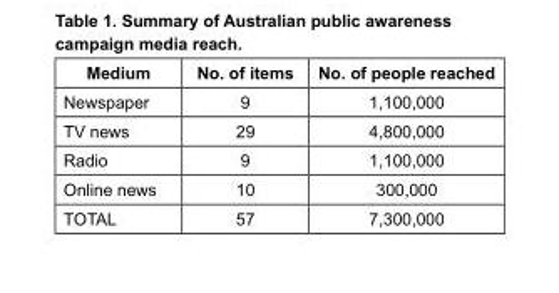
<table><thead><tr><td>Medium</td><td>No. of items</td><td>No. of people reached</td></tr></thead><tbody><tr><td>Newspaper</td><td>9</td><td>1,100,000</td></tr><tr><td>TV news</td><td>29</td><td>4,800,000</td></tr><tr><td>Radio</td><td>9</td><td>1,100,000</td></tr><tr><td>Online news</td><td>10</td><td>300,000</td></tr><tr><td>TOTAL</td><td>57</td><td>7,300,000</td></tr></tbody></table>